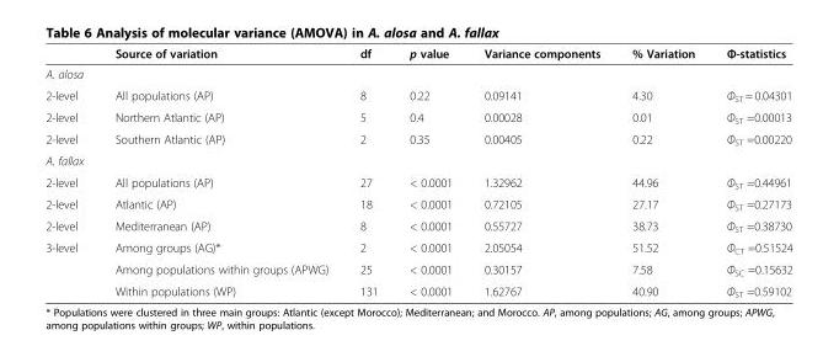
<table><thead><tr><td></td><td>Source of variation</td><td>df</td><td>p value</td><td>Variance components</td><td>% Variation</td><td>Ф-statistics</td></tr></thead><tbody><tr><td colspan="7">A. alosa</td></tr><tr><td>2-level</td><td>All populations (AP)</td><td>8</td><td>0.22</td><td>0.09141</td><td>4.30</td><td>Φ<sub>ST</sub> = 0.04301</td></tr><tr><td>2-level</td><td>Northern Atlantic (AP)</td><td>5</td><td>0.4</td><td>0.00028</td><td>0.01</td><td>Φ<sub>ST</sub> =0.00013</td></tr><tr><td>2-level</td><td>Southern Atlantic (AP)</td><td>2</td><td>0.35</td><td>0.00405</td><td>0.22</td><td>Φ<sub>ST</sub> =0.00220</td></tr><tr><td colspan="7">A. fallax</td></tr><tr><td>2-level</td><td>All populations (AP)</td><td>27</td><td>&lt; 0.0001</td><td>1.32962</td><td>44.96</td><td>Φ<sub>ST</sub> =0.44961</td></tr><tr><td>2-level</td><td>Atlantic (AP)</td><td>18</td><td>&lt; 0.0001</td><td>0.72105</td><td>27.17</td><td>Φ<sub>ST</sub> =0.27173</td></tr><tr><td>2-level</td><td>Mediterranean (AP)</td><td>8</td><td>&lt; 0.0001</td><td>0.55727</td><td>38.73</td><td>Φ<sub>ST</sub> =0.38730</td></tr><tr><td rowspan="3">3-level</td><td>Among groups (AG)*</td><td>2</td><td>&lt; 0.0001</td><td>2.05054</td><td>51.52</td><td>Φ<sub>CT</sub> =0.51524</td></tr><tr><td>Among populations within groups (APWG)</td><td>25</td><td>&lt; 0.0001</td><td>0.30157</td><td>7.58</td><td>Φ<sub>SC</sub> =0.15632</td></tr><tr><td>Within populations (WP)</td><td>131</td><td>&lt; 0.0001</td><td>1.62767</td><td>40.90</td><td>Φ<sub>ST</sub> =0.59102</td></tr></tbody></table>